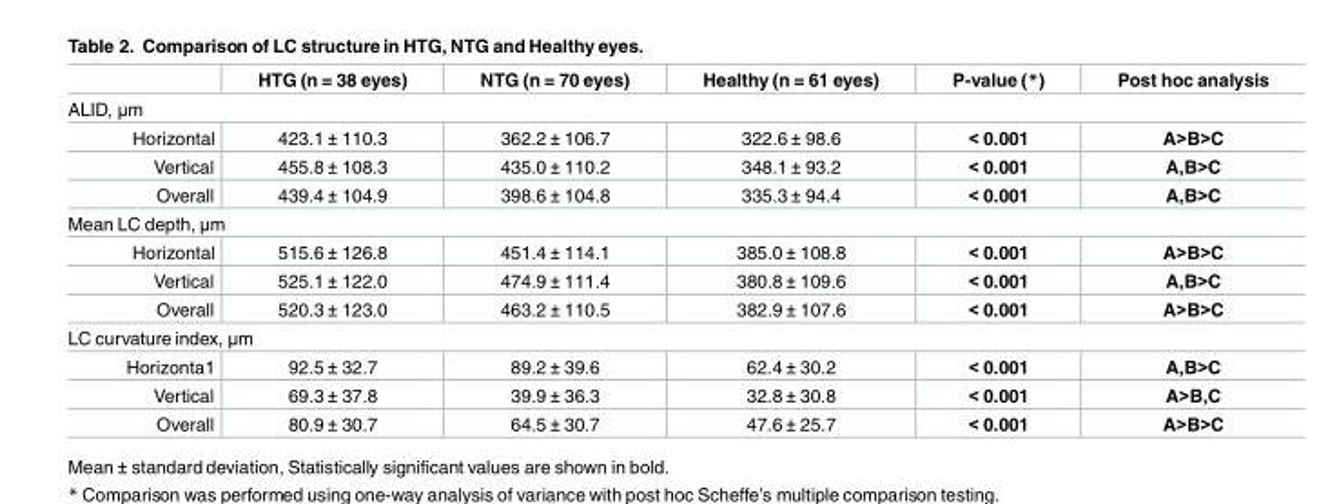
<table><thead><tr><td></td><td>HTG (n = 38 eyes)</td><td>NTG (n = 70 eyes)</td><td>Healthy (n = 61 eyes)</td><td>P-value (*)</td><td>Post hoc analysis</td></tr></thead><tbody><tr><td colspan="6">ALID, μm</td></tr><tr><td>Horizontal</td><td>423.1 ± 110.3</td><td>362.2 ± 106.7</td><td>322.6 ± 98.6</td><td>&lt; 0.001</td><td>A&gt;B&gt;C</td></tr><tr><td>Vertical</td><td>455.8 ± 108.3</td><td>435.0 ± 110.2</td><td>348.1 ± 93.2</td><td>&lt; 0.001</td><td>A,B&gt;C</td></tr><tr><td>Overall</td><td>439.4 ± 104.9</td><td>398.6 ± 104.8</td><td>335.3 ± 94.4</td><td>&lt; 0.001</td><td>A,B&gt;C</td></tr><tr><td colspan="6">Mean LC depth, μm</td></tr><tr><td>Horizontal</td><td>515.6 ± 126.8</td><td>451.4 ± 114.1</td><td>385.0 ± 108.8</td><td>&lt; 0.001</td><td>A&gt;B&gt;C</td></tr><tr><td>Vertical</td><td>525.1 ± 122.0</td><td>474.9 ± 111.4</td><td>380.8 ± 109.6</td><td>&lt; 0.001</td><td>A,B&gt;C</td></tr><tr><td>Overall</td><td>520.3 ± 123.0</td><td>463.2 ± 110.5</td><td>382.9 ± 107.6</td><td>&lt; 0.001</td><td>A&gt;B&gt;C</td></tr><tr><td colspan="6">LC curvature index, μm</td></tr><tr><td>Horizonta1</td><td>92.5 ± 32.7</td><td>89.2 ± 39.6</td><td>62.4 ± 30.2</td><td>&lt; 0.001</td><td>A,B&gt;C</td></tr><tr><td>Vertical</td><td>69.3 ± 37.8</td><td>39.9 ± 36.3</td><td>32.8 ± 30.8</td><td>&lt; 0.001</td><td>A&gt;B,C</td></tr><tr><td>Overall</td><td>80.9 ± 30.7</td><td>64.5 ± 30.7</td><td>47.6 ± 25.7</td><td>&lt; 0.001</td><td>A&gt;B&gt;C</td></tr></tbody></table>